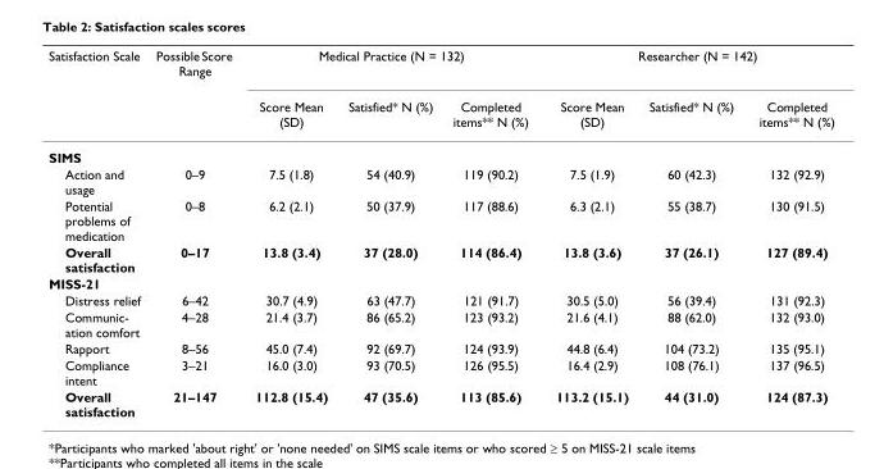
<table><thead><tr><td rowspan="2">Satisfaction Scale</td><td rowspan="2">Possible Score Range</td><td colspan="3">Medical Practice (N = 132)</td><td colspan="3">Researcher (N = 142)</td></tr><tr><td>Score Mean (SD)</td><td>Satisfied* N (%)</td><td>Completed items** N (%)</td><td>Score Mean (SD)</td><td>Satisfied* N (%)</td><td>Completed items** N (%)</td></tr></thead><tbody><tr><td colspan="8">SIMS</td></tr><tr><td>Action and usage</td><td>0–9</td><td>7.5 (1.8)</td><td>54 (40.9)</td><td>119 (90.2)</td><td>7.5 (1.9)</td><td>60 (42.3)</td><td>132 (92.9)</td></tr><tr><td>Potential problems of medication</td><td>0–8</td><td>6.2 (2.1)</td><td>50 (37.9)</td><td>117 (88.6)</td><td>6.3 (2.1)</td><td>55 (38.7)</td><td>130 (91.5)</td></tr><tr><td>Overall satisfaction</td><td>0–17</td><td>13.8 (3.4)</td><td>37 (28.0)</td><td>114 (86.4)</td><td>13.8 (3.6)</td><td>37 (26.1)</td><td>127 (89.4)</td></tr><tr><td colspan="8">MISS-21</td></tr><tr><td>Distress relief</td><td>6–42</td><td>30.7 (4.9)</td><td>63 (47.7)</td><td>121 (91.7)</td><td>30.5 (5.0)</td><td>56 (39.4)</td><td>131 (92.3)</td></tr><tr><td>Communic- ation comfort</td><td>4–28</td><td>21.4 (3.7)</td><td>86 (65.2)</td><td>123 (93.2)</td><td>21.6 (4.1)</td><td>88 (62.0)</td><td>132 (93.0)</td></tr><tr><td>Rapport</td><td>8–56</td><td>45.0 (7.4)</td><td>92 (69.7)</td><td>124 (93.9)</td><td>44.8 (6.4)</td><td>104 (73.2)</td><td>135 (95.1)</td></tr><tr><td>Compliance intent</td><td>3–21</td><td>16.0 (3.0)</td><td>93 (70.5)</td><td>126 (95.5)</td><td>16.4 (2.9)</td><td>108 (76.1)</td><td>137 (96.5)</td></tr><tr><td>Overall satisfaction</td><td>21–147</td><td>112.8 (15.4)</td><td>47 (35.6)</td><td>113 (85.6)</td><td>113.2 (15.1)</td><td>44 (31.0)</td><td>124 (87.3)</td></tr></tbody></table>